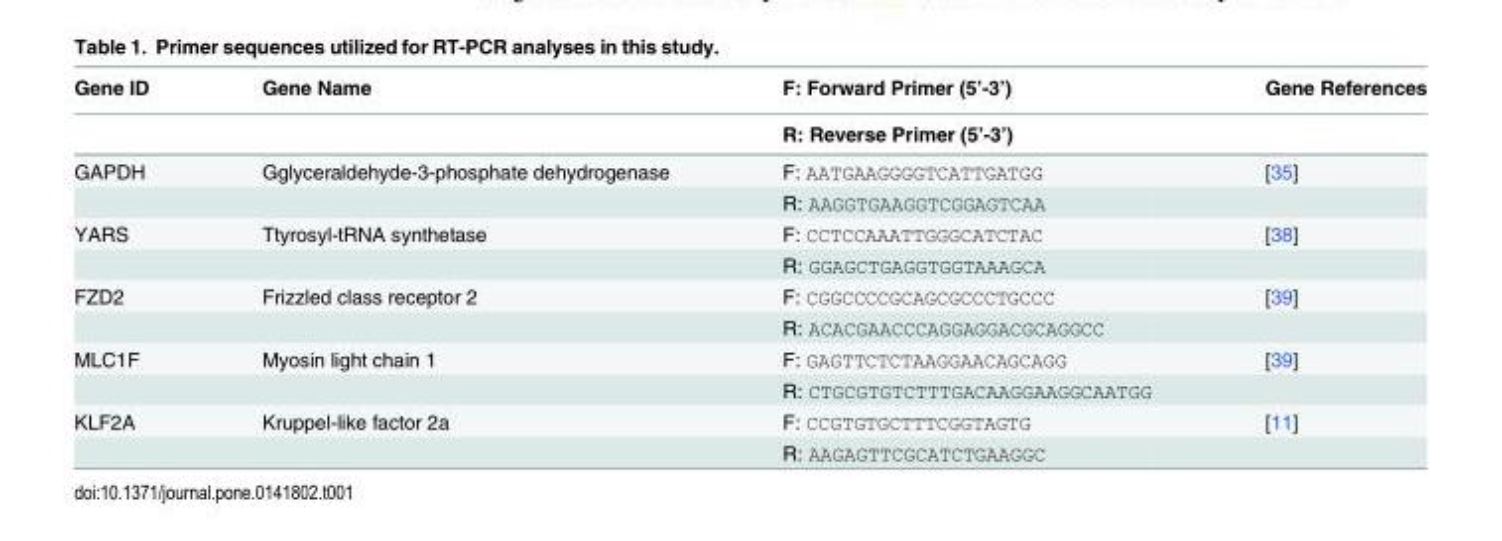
<table><thead><tr><td rowspan="2">Gene ID</td><td rowspan="2">Gene Name</td><td rowspan="2">F: Forward Primer (5’-3’) R: Reverse Primer (5’-3’)</td><td rowspan="2">Gene References</td></tr><tr></tr></thead><tbody><tr><td rowspan="2">GAPDH</td><td>Gglyceraldehyde-3-phosphate dehydrogenase</td><td>F: AATGAAGGGGTCATTGATGG</td><td>[35]</td></tr><tr><td></td><td>R: AAGGTGAAGGTCGGAGTCAA</td><td></td></tr><tr><td rowspan="2">YARS</td><td>Ttyrosyl-tRNA synthetase</td><td>F: CCTCCAAATTGGGCATCTAC</td><td>[38]</td></tr><tr><td></td><td>R: GGAGCTGAGGTGGTAAAGCA</td><td></td></tr><tr><td rowspan="2">FZD2</td><td>Frizzled class receptor 2</td><td>F: CGGCCCCGCAGCGCCCTGCCC</td><td>[39]</td></tr><tr><td></td><td>R: ACACGAACCCAGGAGGACGCAGGCC</td><td></td></tr><tr><td rowspan="2">MLC1F</td><td>Myosin light chain 1</td><td>F: GAGTTCTCTAAGGAACAGCAGG</td><td>[39]</td></tr><tr><td></td><td>R: CTGCGTGTCTTTGACAAGGAAGGCAATGG</td><td></td></tr><tr><td rowspan="2">KLF2A</td><td>Kruppel-like factor 2a</td><td>F: CCGTGTGCTTTCGGTAGTG</td><td>[11]</td></tr><tr><td></td><td>R: AAGAGTTCGCATCTGAAGGC</td><td></td></tr></tbody></table>